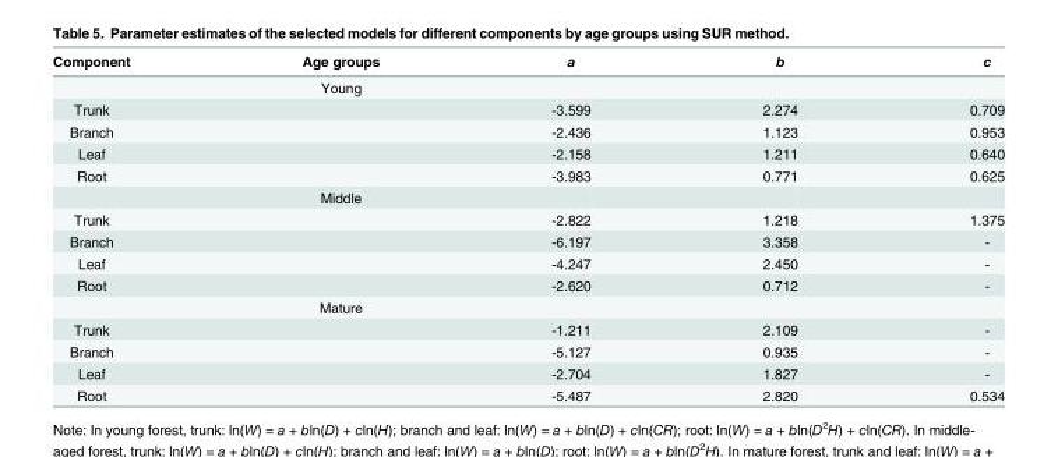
<table><thead><tr><td>Component</td><td>Age groups</td><td>a</td><td>b</td><td>c</td></tr></thead><tbody><tr><td></td><td>Young</td><td></td><td></td><td></td></tr><tr><td>Trunk</td><td></td><td>-3.599</td><td>2.274</td><td>0.709</td></tr><tr><td>Branch</td><td></td><td>-2.436</td><td>1.123</td><td>0.953</td></tr><tr><td>Leaf</td><td></td><td>-2.158</td><td>1.211</td><td>0.640</td></tr><tr><td rowspan="2">Root</td><td></td><td>-3.983</td><td>0.771</td><td>0.625</td></tr><tr><td>Middle</td><td></td><td></td><td></td></tr><tr><td>Trunk</td><td></td><td>-2.822</td><td>1.218</td><td>1.375</td></tr><tr><td>Branch</td><td></td><td>-6.197</td><td>3.358</td><td>-</td></tr><tr><td>Leaf</td><td></td><td>-4.247</td><td>2.450</td><td>-</td></tr><tr><td rowspan="2">Root</td><td></td><td>-2.620</td><td>0.712</td><td>-</td></tr><tr><td>Mature</td><td></td><td></td><td></td></tr><tr><td>Trunk</td><td></td><td>-1.211</td><td>2.109</td><td>-</td></tr><tr><td>Branch</td><td></td><td>-5.127</td><td>0.935</td><td>-</td></tr><tr><td>Leaf</td><td></td><td>-2.704</td><td>1.827</td><td>-</td></tr><tr><td>Root</td><td></td><td>-5.487</td><td>2.820</td><td>0.534</td></tr></tbody></table>